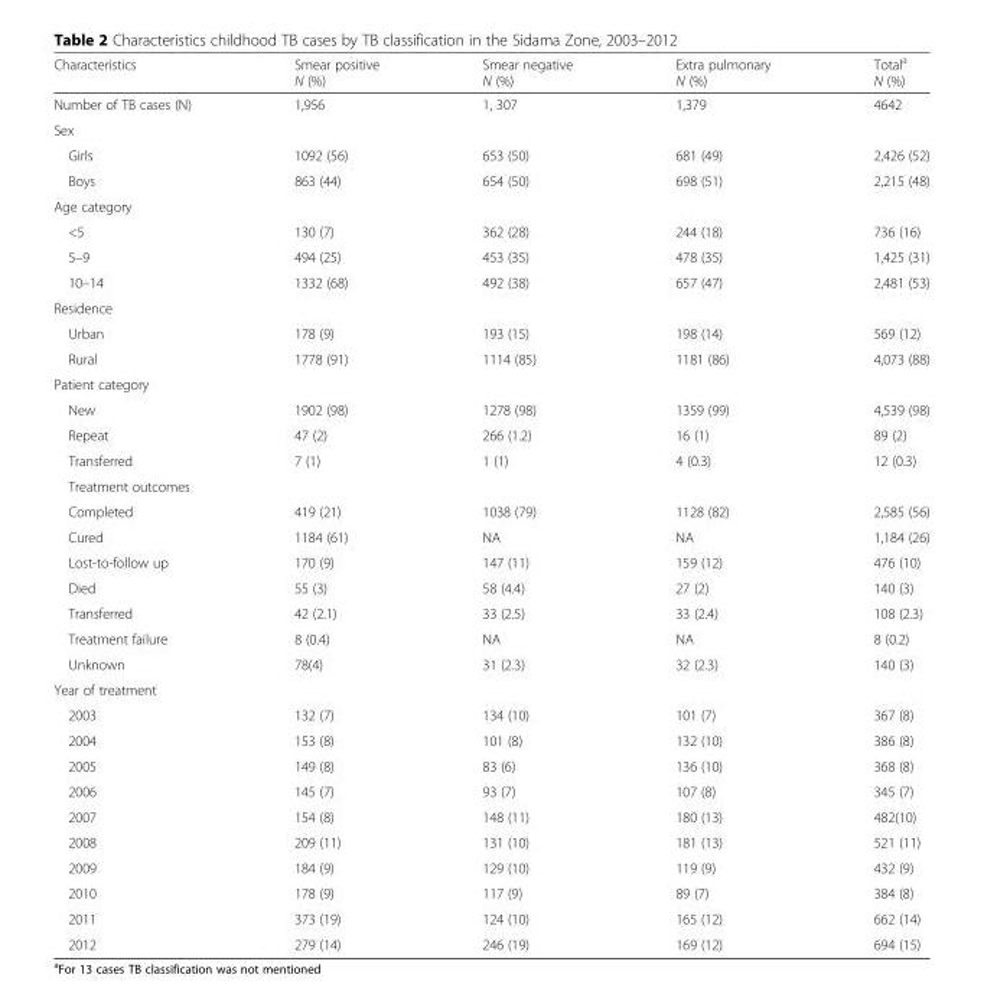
<table><thead><tr><td>Characteristics</td><td>Smear positive N (%)</td><td>Smear negative N (%)</td><td>Extra pulmonary N (%)</td><td>Total<sup>a</sup> N (%)</td></tr></thead><tbody><tr><td>Number of TB cases (N)</td><td>1,956</td><td>1, 307</td><td>1,379</td><td>4642</td></tr><tr><td colspan="5">Sex</td></tr><tr><td>Girls</td><td>1092 (56)</td><td>653 (50)</td><td>681 (49)</td><td>2,426 (52)</td></tr><tr><td>Boys</td><td>863 (44)</td><td>654 (50)</td><td>698 (51)</td><td>2,215 (48)</td></tr><tr><td colspan="5">Age category</td></tr><tr><td>&lt;5</td><td>130 (7)</td><td>362 (28)</td><td>244 (18)</td><td>736 (16)</td></tr><tr><td>5–9</td><td>494 (25)</td><td>453 (35)</td><td>478 (35)</td><td>1,425 (31)</td></tr><tr><td>10–14</td><td>1332 (68)</td><td>492 (38)</td><td>657 (47)</td><td>2,481 (53)</td></tr><tr><td colspan="5">Residence</td></tr><tr><td>Urban</td><td>178 (9)</td><td>193 (15)</td><td>198 (14)</td><td>569 (12)</td></tr><tr><td>Rural</td><td>1778 (91)</td><td>1114 (85)</td><td>1181 (86)</td><td>4,073 (88)</td></tr><tr><td colspan="5">Patient category</td></tr><tr><td>New</td><td>1902 (98)</td><td>1278 (98)</td><td>1359 (99)</td><td>4,539 (98)</td></tr><tr><td>Repeat</td><td>47 (2)</td><td>266 (1.2)</td><td>16 (1)</td><td>89 (2)</td></tr><tr><td>Transferred</td><td>7 (1)</td><td>1 (1)</td><td>4 (0.3)</td><td>12 (0.3)</td></tr><tr><td colspan="5">Treatment outcomes</td></tr><tr><td>Completed</td><td>419 (21)</td><td>1038 (79)</td><td>1128 (82)</td><td>2,585 (56)</td></tr><tr><td>Cured</td><td>1184 (61)</td><td>NA</td><td>NA</td><td>1,184 (26)</td></tr><tr><td>Lost-to-follow up</td><td>170 (9)</td><td>147 (11)</td><td>159 (12)</td><td>476 (10)</td></tr><tr><td>Died</td><td>55 (3)</td><td>58 (4.4)</td><td>27 (2)</td><td>140 (3)</td></tr><tr><td>Transferred</td><td>42 (2.1)</td><td>33 (2.5)</td><td>33 (2.4)</td><td>108 (2.3)</td></tr><tr><td>Treatment failure</td><td>8 (0.4)</td><td>NA</td><td>NA</td><td>8 (0.2)</td></tr><tr><td>Unknown</td><td>78(4)</td><td>31 (2.3)</td><td>32 (2.3)</td><td>140 (3)</td></tr><tr><td colspan="5">Year of treatment</td></tr><tr><td>2003</td><td>132 (7)</td><td>134 (10)</td><td>101 (7)</td><td>367 (8)</td></tr><tr><td>2004</td><td>153 (8)</td><td>101 (8)</td><td>132 (10)</td><td>386 (8)</td></tr><tr><td>2005</td><td>149 (8)</td><td>83 (6)</td><td>136 (10)</td><td>368 (8)</td></tr><tr><td>2006</td><td>145 (7)</td><td>93 (7)</td><td>107 (8)</td><td>345 (7)</td></tr><tr><td>2007</td><td>154 (8)</td><td>148 (11)</td><td>180 (13)</td><td>482(10)</td></tr><tr><td>2008</td><td>209 (11)</td><td>131 (10)</td><td>181 (13)</td><td>521 (11)</td></tr><tr><td>2009</td><td>184 (9)</td><td>129 (10)</td><td>119 (9)</td><td>432 (9)</td></tr><tr><td>2010</td><td>178 (9)</td><td>117 (9)</td><td>89 (7)</td><td>384 (8)</td></tr><tr><td>2011</td><td>373 (19)</td><td>124 (10)</td><td>165 (12)</td><td>662 (14)</td></tr><tr><td>2012</td><td>279 (14)</td><td>246 (19)</td><td>169 (12)</td><td>694 (15)</td></tr></tbody></table>